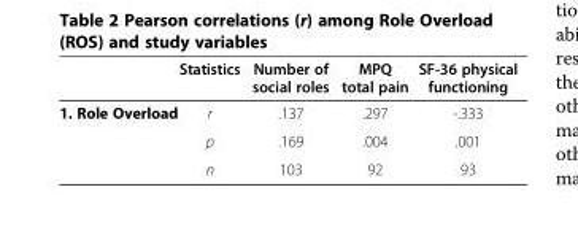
<table><thead><tr><td></td><td>Statistics</td><td>Number of social roles</td><td>MPQ total pain</td><td>SF-36 physical functioning</td></tr></thead><tbody><tr><td rowspan="3">1. Role Overload</td><td>r</td><td>.137</td><td>.297</td><td>-.333</td></tr><tr><td>p</td><td>.169</td><td>.004</td><td>.001</td></tr><tr><td>n</td><td>103</td><td>92</td><td>93</td></tr></tbody></table>